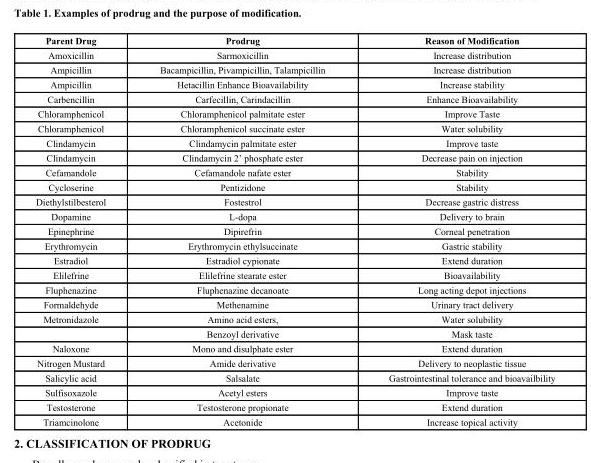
<table><thead><tr><td>Parent Drug</td><td>Prodrug</td><td>Reason of Modification</td></tr></thead><tbody><tr><td>Amoxicillin</td><td>Sarmoxicillin</td><td>Increase distribution</td></tr><tr><td>Ampicillin</td><td>Bacampicillin, Pivampicillin, Talampicillin</td><td>Increase distribution</td></tr><tr><td>Ampicillin</td><td>Hetacillin Enhance Bioavailability</td><td>Increase stability</td></tr><tr><td>Carbencillin</td><td>Carfecillin, Carindacillin</td><td>Enhance Bioavailability</td></tr><tr><td>Chloramphenicol</td><td>Chloramphenicol palmitate ester</td><td>Improve Taste</td></tr><tr><td>Chloramphenicol</td><td>Chloramphenicol succinate ester</td><td>Water solubility</td></tr><tr><td>Clindamycin</td><td>Clindamycin palmitate ester</td><td>Improve taste</td></tr><tr><td>Clindamycin</td><td>Clindamycin 2’ phosphate ester</td><td>Decrease pain on injection</td></tr><tr><td>Cefamandole</td><td>Cefamandole nafate ester</td><td>Stability</td></tr><tr><td>Cycloserine</td><td>Pentizidone</td><td>Stability</td></tr><tr><td>Diethylstilbesterol</td><td>Fostestrol</td><td>Decrease gastric distress</td></tr><tr><td>Dopamine</td><td>L-dopa</td><td>Delivery to brain</td></tr><tr><td>Epinephrine</td><td>Dipirefrin</td><td>Corneal penetration</td></tr><tr><td>Erythromycin</td><td>Erythromycin ethylsuccinate</td><td>Gastric stability</td></tr><tr><td>Estradiol</td><td>Estradiol cypionate</td><td>Extend duration</td></tr><tr><td>Elilefrine</td><td>Elilefrine stearate ester</td><td>Bioavailability</td></tr><tr><td>Fluphenazine</td><td>Fluphenazine decanoate</td><td>Long acting depot injections</td></tr><tr><td>Formaldehyde</td><td>Methenamine</td><td>Urinary tract delivery</td></tr><tr><td rowspan="2">Metronidazole</td><td>Amino acid esters,</td><td>Water solubility</td></tr><tr><td>Benzoyl derivative</td><td>Mask taste</td></tr><tr><td>Naloxone</td><td>Mono and disulphate ester</td><td>Extend duration</td></tr><tr><td>Nitrogen Mustard</td><td>Amide derivative</td><td>Delivery to neoplastic tissue</td></tr><tr><td>Salicylic acid</td><td>Salsalate</td><td>Gastrointestinal tolerance and bioavailbility</td></tr><tr><td>Sulfisoxazole</td><td>Acetyl esters</td><td>Improve taste</td></tr><tr><td>Testosterone</td><td>Testosterone propionate</td><td>Extend duration</td></tr><tr><td>Triamcinolone</td><td>Acetonide</td><td>Increase topical activity</td></tr></tbody></table>